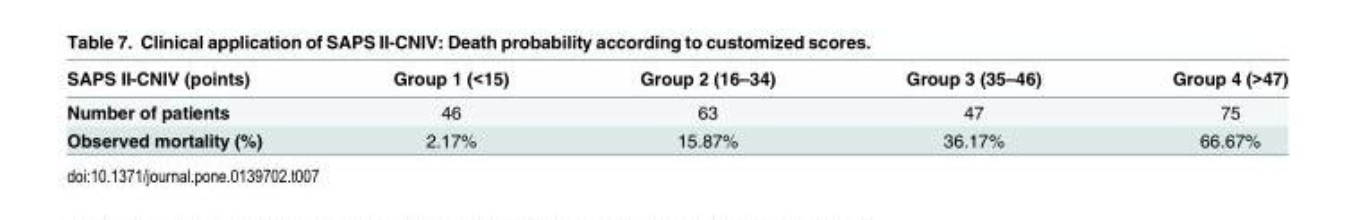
<table><thead><tr><td>SAPS II-CNIV (points)</td><td>Group 1 (&lt;15)</td><td>Group 2 (16–34)</td><td>Group 3 (35–46)</td><td>Group 4 (&gt;47)</td></tr></thead><tbody><tr><td>Number of patients</td><td>46</td><td>63</td><td>47</td><td>75</td></tr><tr><td>Observed mortality (%)</td><td>2.17%</td><td>15.87%</td><td>36.17%</td><td>66.67%</td></tr></tbody></table>